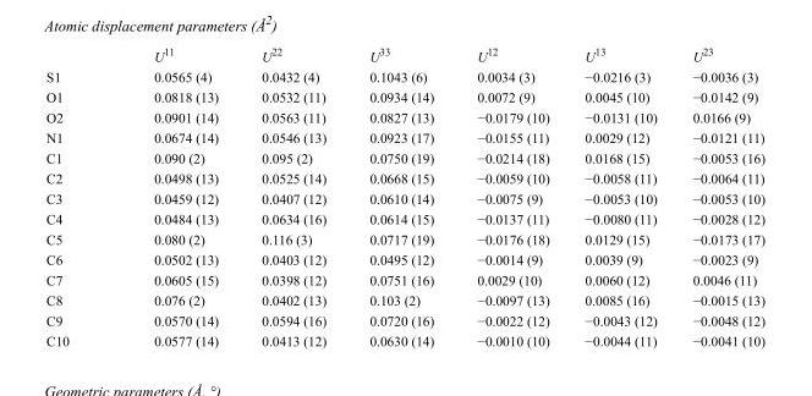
<table><thead><tr><td></td><td>U<sup>11</sup></td><td>U<sup>22</sup></td><td>U<sup>33</sup></td><td>U<sup>12</sup></td><td>U<sup>13</sup></td><td>U<sup>23</sup></td></tr></thead><tbody><tr><td>S1</td><td>0.0565 (4)</td><td>0.0432 (4)</td><td>0.1043 (6)</td><td>0.0034 (3)</td><td>−0.0216 (3)</td><td>−0.0036 (3)</td></tr><tr><td>O1</td><td>0.0818 (13)</td><td>0.0532 (11)</td><td>0.0934 (14)</td><td>0.0072 (9)</td><td>0.0045 (10)</td><td>−0.0142 (9)</td></tr><tr><td>O2</td><td>0.0901 (14)</td><td>0.0563 (11)</td><td>0.0827 (13)</td><td>−0.0179 (10)</td><td>−0.0131 (10)</td><td>0.0166 (9)</td></tr><tr><td>N1</td><td>0.0674 (14)</td><td>0.0546 (13)</td><td>0.0923 (17)</td><td>−0.0155 (11)</td><td>0.0029 (12)</td><td>−0.0121 (11)</td></tr><tr><td>C1</td><td>0.090 (2)</td><td>0.095 (2)</td><td>0.0750 (19)</td><td>−0.0214 (18)</td><td>0.0168 (15)</td><td>−0.0053 (16)</td></tr><tr><td>C2</td><td>0.0498 (13)</td><td>0.0525 (14)</td><td>0.0668 (15)</td><td>−0.0059 (10)</td><td>−0.0058 (11)</td><td>−0.0064 (11)</td></tr><tr><td>C3</td><td>0.0459 (12)</td><td>0.0407 (12)</td><td>0.0610 (14)</td><td>−0.0075 (9)</td><td>−0.0053 (10)</td><td>−0.0053 (10)</td></tr><tr><td>C4</td><td>0.0484 (13)</td><td>0.0634 (16)</td><td>0.0614 (15)</td><td>−0.0137 (11)</td><td>−0.0080 (11)</td><td>−0.0028 (12)</td></tr><tr><td>C5</td><td>0.080 (2)</td><td>0.116 (3)</td><td>0.0717 (19)</td><td>−0.0176 (18)</td><td>0.0129 (15)</td><td>−0.0173 (17)</td></tr><tr><td>C6</td><td>0.0502 (13)</td><td>0.0403 (12)</td><td>0.0495 (12)</td><td>−0.0014 (9)</td><td>0.0039 (9)</td><td>−0.0023 (9)</td></tr><tr><td>C7</td><td>0.0605 (15)</td><td>0.0398 (12)</td><td>0.0751 (16)</td><td>0.0029 (10)</td><td>0.0060 (12)</td><td>0.0046 (11)</td></tr><tr><td>C8</td><td>0.076 (2)</td><td>0.0402 (13)</td><td>0.103 (2)</td><td>−0.0097 (13)</td><td>0.0085 (16)</td><td>−0.0015 (13)</td></tr><tr><td>C9</td><td>0.0570 (14)</td><td>0.0594 (16)</td><td>0.0720 (16)</td><td>−0.0022 (12)</td><td>−0.0043 (12)</td><td>−0.0048 (12)</td></tr><tr><td>C10</td><td>0.0577 (14)</td><td>0.0413 (12)</td><td>0.0630 (14)</td><td>−0.0010 (10)</td><td>−0.0044 (11)</td><td>−0.0041 (10)</td></tr></tbody></table>